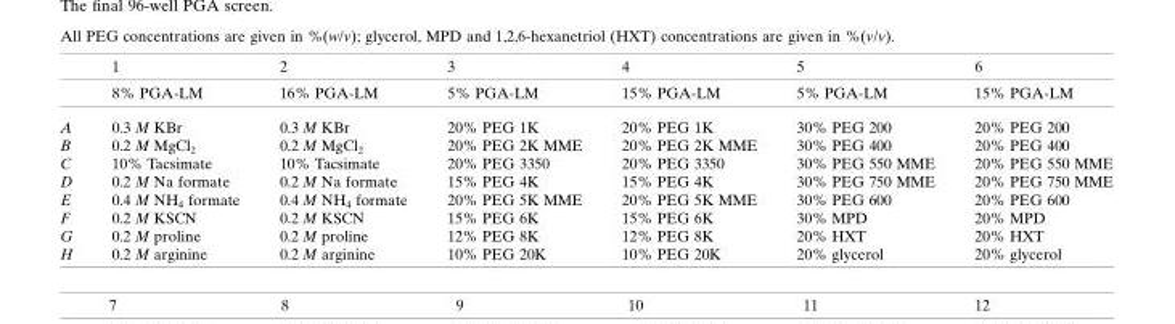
<table><thead><tr><td rowspan="2"></td><td rowspan="2">1 8% PGA-LM</td><td rowspan="2">2 16% PGA-LM</td><td rowspan="2">3 5% PGA-LM</td><td rowspan="2">4 15% PGA-LM</td><td rowspan="2">5 5% PGA-LM</td><td rowspan="2">6 15% PGA-LM</td></tr><tr></tr></thead><tbody><tr><td>A</td><td>0.3 M KBr</td><td>0.3 M KBr</td><td>20% PEG 1K</td><td>20% PEG 1K</td><td>30% PEG 200</td><td>20% PEG 200</td></tr><tr><td>B</td><td>0.2 M MgCl<sub>2</sub></td><td>0.2 M MgCl<sub>2</sub></td><td>20% PEG 2K MME</td><td>20% PEG 2K MME</td><td>30% PEG 400</td><td>20% PEG 400</td></tr><tr><td>C</td><td>10% Tacsimate</td><td>10% Tacsimate</td><td>20% PEG 3350</td><td>20% PEG 3350</td><td>30% PEG 550 MME</td><td>20% PEG 550 MME</td></tr><tr><td>D</td><td>0.2 M Na formate</td><td>0.2 M Na formate</td><td>15% PEG 4K</td><td>15% PEG 4K</td><td>30% PEG 750 MME</td><td>20% PEG 750 MME</td></tr><tr><td>E</td><td>0.4 M NH<sub>4</sub> formate</td><td>0.4 M NH<sub>4</sub> formate</td><td>20% PEG 5K MME</td><td>20% PEG 5K MME</td><td>30% PEG 600</td><td>20% PEG 600</td></tr><tr><td>F</td><td>0.2 M KSCN</td><td>0.2 M KSCN</td><td>15% PEG 6K</td><td>15% PEG 6K</td><td>30% MPD</td><td>20% MPD</td></tr><tr><td>G</td><td>0.2 M proline</td><td>0.2 M proline</td><td>12% PEG 8K</td><td>12% PEG 8K</td><td>20% HXT</td><td>20% HXT</td></tr><tr><td>H</td><td>0.2 M arginine</td><td>0.2 M arginine</td><td>10% PEG 20K</td><td>10% PEG 20K</td><td>20% glycerol</td><td>20% glycerol</td></tr></tbody></table>